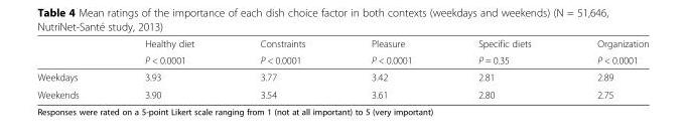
<table><thead><tr><td rowspan="2"></td><td rowspan="2">Healthy diet P &lt; 0.0001</td><td rowspan="2">Constraints P &lt; 0.0001</td><td rowspan="2">Pleasure P &lt; 0.0001</td><td rowspan="2">Specific diets P = 0.35</td><td rowspan="2">Organization P &lt; 0.0001</td></tr><tr></tr></thead><tbody><tr><td>Weekdays</td><td>3.93</td><td>3.77</td><td>3.42</td><td>2.81</td><td>2.89</td></tr><tr><td>Weekends</td><td>3.90</td><td>3.54</td><td>3.61</td><td>2.80</td><td>2.75</td></tr></tbody></table>